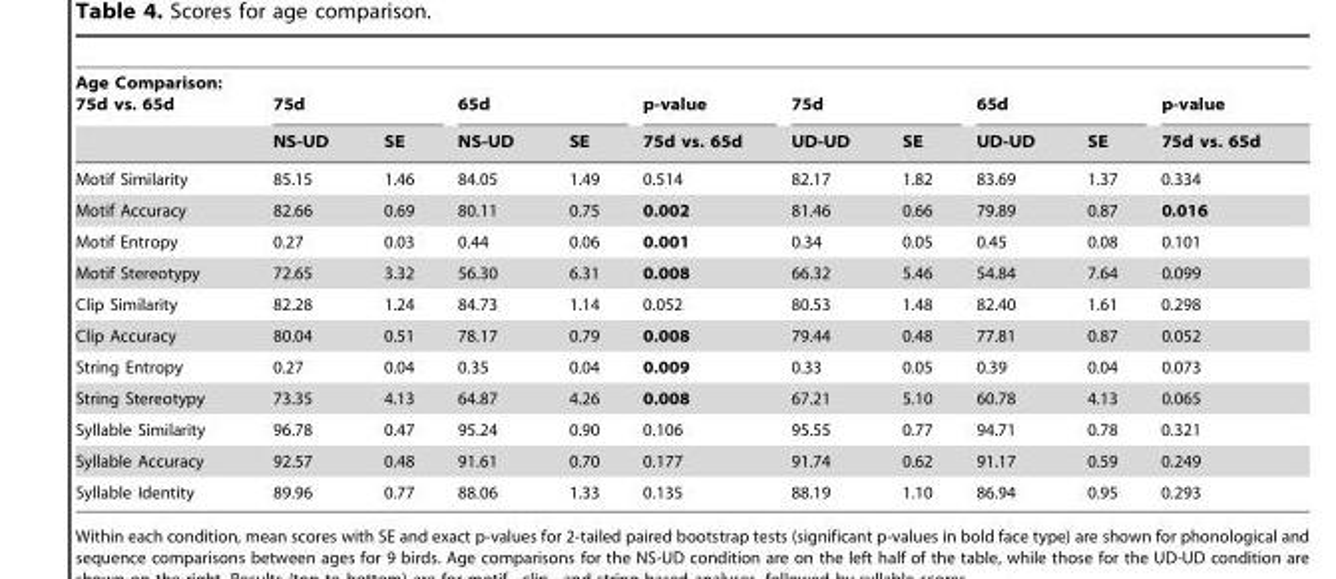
<table><thead><tr><td rowspan="2">Age Comparison: 75d vs. 65d</td><td colspan="2">75d</td><td colspan="2">65d</td><td rowspan="2">p-value 75d vs. 65d</td><td colspan="2">75d</td><td colspan="2">65d</td><td rowspan="2">p-value 75d vs. 65d</td></tr><tr><td>NS-UD</td><td>SE</td><td>NS-UD</td><td>SE</td><td>UD-UD</td><td>SE</td><td>UD-UD</td><td>SE</td></tr></thead><tbody><tr><td>Motif Similarity</td><td>85.15</td><td>1.46</td><td>84.05</td><td>1.49</td><td>0.514</td><td>82.17</td><td>1.82</td><td>83.69</td><td>1.37</td><td>0.334</td></tr><tr><td>Motif Accuracy</td><td>82.66</td><td>0.69</td><td>80.11</td><td>0.75</td><td>0.002</td><td>81.46</td><td>0.66</td><td>79.89</td><td>0.87</td><td>0.016</td></tr><tr><td>Motif Entropy</td><td>0.27</td><td>0.03</td><td>0.44</td><td>0.06</td><td>0.001</td><td>0.34</td><td>0.05</td><td>0.45</td><td>0.08</td><td>0.101</td></tr><tr><td>Motif Stereotypy</td><td>72.65</td><td>3.32</td><td>56.30</td><td>6.31</td><td>0.008</td><td>66.32</td><td>5.46</td><td>54.84</td><td>7.64</td><td>0.099</td></tr><tr><td>Clip Similarity</td><td>82.28</td><td>1.24</td><td>84.73</td><td>1.14</td><td>0.052</td><td>80.53</td><td>1.48</td><td>82.40</td><td>1.61</td><td>0.298</td></tr><tr><td>Clip Accuracy</td><td>80.04</td><td>0.51</td><td>78.17</td><td>0.79</td><td>0.008</td><td>79.44</td><td>0.48</td><td>77.81</td><td>0.87</td><td>0.052</td></tr><tr><td>String Entropy</td><td>0.27</td><td>0.04</td><td>0.35</td><td>0.04</td><td>0.009</td><td>0.33</td><td>0.05</td><td>0.39</td><td>0.04</td><td>0.073</td></tr><tr><td>String Stereotypy</td><td>73.35</td><td>4.13</td><td>64.87</td><td>4.26</td><td>0.008</td><td>67.21</td><td>5.10</td><td>60.78</td><td>4.13</td><td>0.065</td></tr><tr><td>Syllable Similarity</td><td>96.78</td><td>0.47</td><td>95.24</td><td>0.90</td><td>0.106</td><td>95.55</td><td>0.77</td><td>94.71</td><td>0.78</td><td>0.321</td></tr><tr><td>Syllable Accuracy</td><td>92.57</td><td>0.48</td><td>91.61</td><td>0.70</td><td>0.177</td><td>91.74</td><td>0.62</td><td>91.17</td><td>0.59</td><td>0.249</td></tr><tr><td>Syllable Identity</td><td>89.96</td><td>0.77</td><td>88.06</td><td>1.33</td><td>0.135</td><td>88.19</td><td>1.10</td><td>86.94</td><td>0.95</td><td>0.293</td></tr></tbody></table>